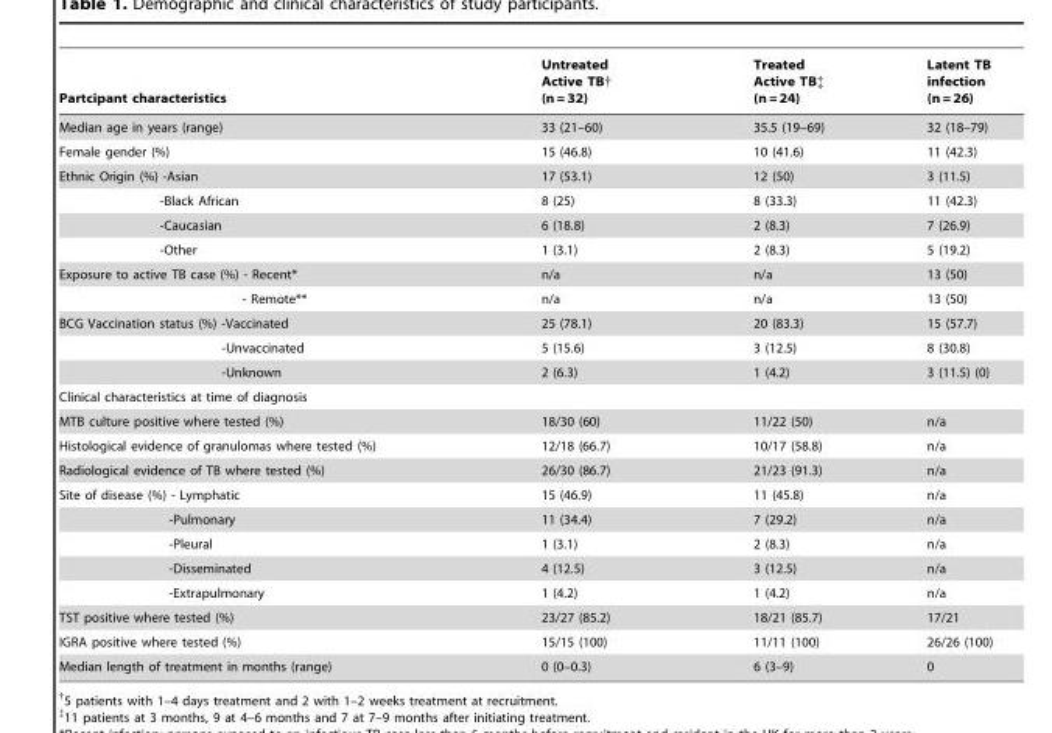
<table><thead><tr><td>Partcipant characteristics</td><td>Untreated Active TB† (n = 32)</td><td>Treated Active TB‡ (n = 24)</td><td>Latent TB infection (n = 26)</td></tr></thead><tbody><tr><td>Median age in years (range)</td><td>33 (21–60)</td><td>35.5 (19–69)</td><td>32 (18–79)</td></tr><tr><td>Female gender (%)</td><td>15 (46.8)</td><td>10 (41.6)</td><td>11 (42.3)</td></tr><tr><td>Ethnic Origin (%) -Asian</td><td>17 (53.1)</td><td>12 (50)</td><td>3 (11.5)</td></tr><tr><td>-Black African</td><td>8 (25)</td><td>8 (33.3)</td><td>11 (42.3)</td></tr><tr><td>-Caucasian</td><td>6 (18.8)</td><td>2 (8.3)</td><td>7 (26.9)</td></tr><tr><td>-Other</td><td>1 (3.1)</td><td>2 (8.3)</td><td>5 (19.2)</td></tr><tr><td>Exposure to active TB case (%) - Recent*</td><td>n/a</td><td>n/a</td><td>13 (50)</td></tr><tr><td>- Remote**</td><td>n/a</td><td>n/a</td><td>13 (50)</td></tr><tr><td>BCG Vaccination status (%) -Vaccinated</td><td>25 (78.1)</td><td>20 (83.3)</td><td>15 (57.7)</td></tr><tr><td>-Unvaccinated</td><td>5 (15.6)</td><td>3 (12.5)</td><td>8 (30.8)</td></tr><tr><td>-Unknown</td><td>2 (6.3)</td><td>1 (4.2)</td><td>3 (11.5) (0)</td></tr><tr><td colspan="4">Clinical characteristics at time of diagnosis</td></tr><tr><td>MTB culture positive where tested (%)</td><td>18/30 (60)</td><td>11/22 (50)</td><td>n/a</td></tr><tr><td>Histological evidence of granulomas where tested (%)</td><td>12/18 (66.7)</td><td>10/17 (58.8)</td><td>n/a</td></tr><tr><td>Radiological evidence of TB where tested (%)</td><td>26/30 (86.7)</td><td>21/23 (91.3)</td><td>n/a</td></tr><tr><td>Site of disease (%) - Lymphatic</td><td>15 (46.9)</td><td>11 (45.8)</td><td>n/a</td></tr><tr><td>-Pulmonary</td><td>11 (34.4)</td><td>7 (29.2)</td><td>n/a</td></tr><tr><td>-Pleural</td><td>1 (3.1)</td><td>2 (8.3)</td><td>n/a</td></tr><tr><td>-Disseminated</td><td>4 (12.5)</td><td>3 (12.5)</td><td>n/a</td></tr><tr><td>-Extrapulmonary</td><td>1 (4.2)</td><td>1 (4.2)</td><td>n/a</td></tr><tr><td>TST positive where tested (%)</td><td>23/27 (85.2)</td><td>18/21 (85.7)</td><td>17/21</td></tr><tr><td>IGRA positive where tested (%)</td><td>15/15 (100)</td><td>11/11 (100)</td><td>26/26 (100)</td></tr><tr><td>Median length of treatment in months (range)</td><td>0 (0–0.3)</td><td>6 (3–9)</td><td>0</td></tr></tbody></table>